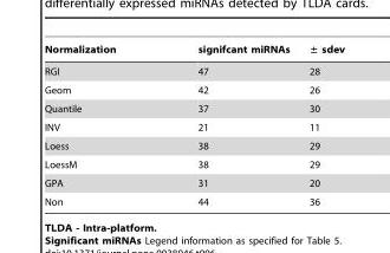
<table><thead><tr><td>Normalization</td><td>signifcant miRNAs</td><td>± sdev</td></tr></thead><tbody><tr><td>RGI</td><td>47</td><td>28</td></tr><tr><td>Geom</td><td>42</td><td>26</td></tr><tr><td>Quantile</td><td>37</td><td>30</td></tr><tr><td>INV</td><td>21</td><td>11</td></tr><tr><td>Loess</td><td>38</td><td>29</td></tr><tr><td>LoessM</td><td>38</td><td>29</td></tr><tr><td>GPA</td><td>31</td><td>20</td></tr><tr><td>Non</td><td>44</td><td>36</td></tr></tbody></table>